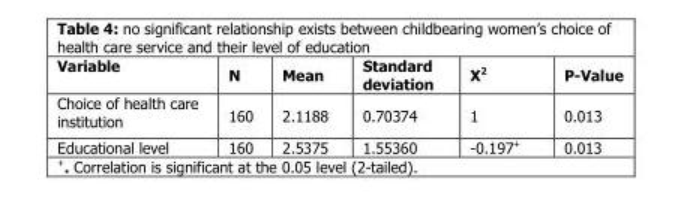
<table><thead><tr><td>Variable</td><td>N</td><td>Mean</td><td>Standard deviation</td><td>X<sup>2</sup></td><td>P-Value</td></tr></thead><tbody><tr><td>Choice of health care institution</td><td>160</td><td>2.1188</td><td>0.70374</td><td>1</td><td>0.013</td></tr><tr><td>Educational level</td><td>160</td><td>2.5375</td><td>1.55360</td><td>-0.197<sup>+</sup></td><td>0.013</td></tr></tbody></table>